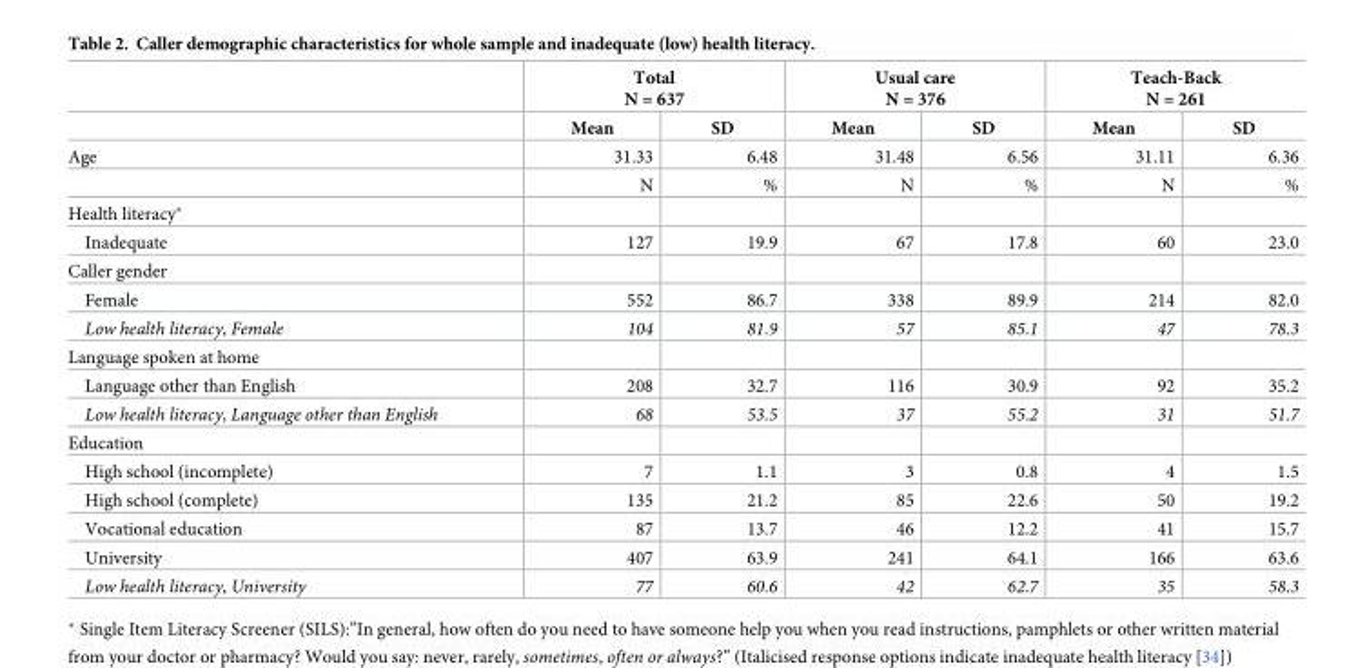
<table><thead><tr><td rowspan="2"></td><td colspan="2">Total N = 637</td><td colspan="2">Usual care N = 376</td><td colspan="2">Teach-Back N = 261</td></tr><tr><td>Mean</td><td>SD</td><td>Mean</td><td>SD</td><td>Mean</td><td>SD</td></tr></thead><tbody><tr><td rowspan="2">Age</td><td>31.33</td><td>6.48</td><td>31.48</td><td>6.56</td><td>31.11</td><td>6.36</td></tr><tr><td>N</td><td>%</td><td>N</td><td>%</td><td>N</td><td>%</td></tr><tr><td colspan="7">Health literacy*</td></tr><tr><td>Inadequate</td><td>127</td><td>19.9</td><td>67</td><td>17.8</td><td>60</td><td>23.0</td></tr><tr><td colspan="7">Caller gender</td></tr><tr><td>Female</td><td>552</td><td>86.7</td><td>338</td><td>89.9</td><td>214</td><td>82.0</td></tr><tr><td>Low health literacy, Female</td><td>104</td><td>81.9</td><td>57</td><td>85.1</td><td>47</td><td>78.3</td></tr><tr><td colspan="7">Language spoken at home</td></tr><tr><td>Language other than English</td><td>208</td><td>32.7</td><td>116</td><td>30.9</td><td>92</td><td>35.2</td></tr><tr><td>Low health literacy, Language other than English</td><td>68</td><td>53.5</td><td>37</td><td>55.2</td><td>31</td><td>51.7</td></tr><tr><td colspan="7">Education</td></tr><tr><td>High school (incomplete)</td><td>7</td><td>1.1</td><td>3</td><td>0.8</td><td>4</td><td>1.5</td></tr><tr><td>High school (complete)</td><td>135</td><td>21.2</td><td>85</td><td>22.6</td><td>50</td><td>19.2</td></tr><tr><td>Vocational education</td><td>87</td><td>13.7</td><td>46</td><td>12.2</td><td>41</td><td>15.7</td></tr><tr><td>University</td><td>407</td><td>63.9</td><td>241</td><td>64.1</td><td>166</td><td>63.6</td></tr><tr><td>Low health literacy, University</td><td>77</td><td>60.6</td><td>42</td><td>62.7</td><td>35</td><td>58.3</td></tr></tbody></table>